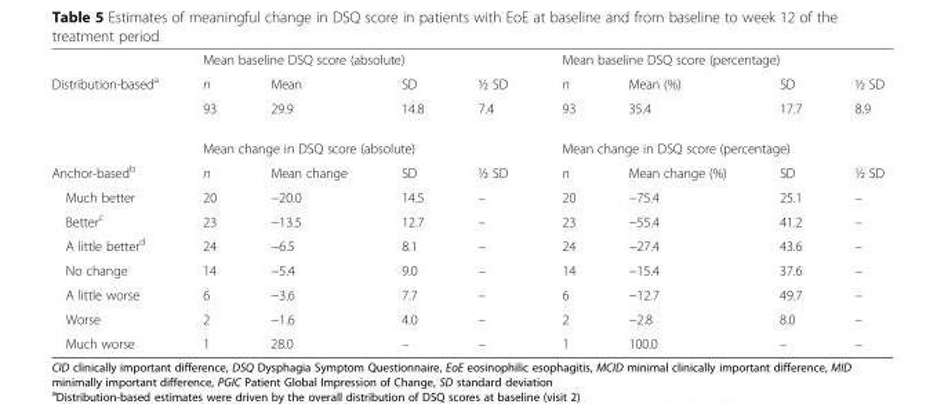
<table><thead><tr><td rowspan="2">Distribution-based<sup>a</sup></td><td colspan="4">Mean baseline DSQ score (absolute)</td><td colspan="4">Mean baseline DSQ score (percentage)</td></tr><tr><td>n</td><td>Mean</td><td>SD</td><td>½ SD</td><td>n</td><td>Mean (%)</td><td>SD</td><td>½ SD</td></tr></thead><tbody><tr><td></td><td>93</td><td>29.9</td><td>14.8</td><td>7.4</td><td>93</td><td>35.4</td><td>17.7</td><td>8.9</td></tr><tr><td></td><td colspan="4">Mean change in DSQ score (absolute)</td><td colspan="4">Mean change in DSQ score (percentage)</td></tr><tr><td>Anchor-based<sup>b</sup></td><td>n</td><td>Mean change</td><td>SD</td><td>½ SD</td><td>n</td><td>Mean change (%)</td><td>SD</td><td>½ SD</td></tr><tr><td>Much better</td><td>20</td><td>−20.0</td><td>14.5</td><td>–</td><td>20</td><td>−75.4</td><td>25.1</td><td>–</td></tr><tr><td>Better<sup>c</sup></td><td>23</td><td>−13.5</td><td>12.7</td><td>–</td><td>23</td><td>−55.4</td><td>41.2</td><td>–</td></tr><tr><td>A little better<sup>d</sup></td><td>24</td><td>−6.5</td><td>8.1</td><td>–</td><td>24</td><td>−27.4</td><td>43.6</td><td>–</td></tr><tr><td>No change</td><td>14</td><td>−5.4</td><td>9.0</td><td>–</td><td>14</td><td>−15.4</td><td>37.6</td><td>–</td></tr><tr><td>A little worse</td><td>6</td><td>−3.6</td><td>7.7</td><td>–</td><td>6</td><td>−12.7</td><td>49.7</td><td>–</td></tr><tr><td>Worse</td><td>2</td><td>−1.6</td><td>4.0</td><td>–</td><td>2</td><td>−2.8</td><td>8.0</td><td>–</td></tr><tr><td>Much worse</td><td>1</td><td>28.0</td><td>–</td><td>–</td><td>1</td><td>100.0</td><td>–</td><td>–</td></tr></tbody></table>